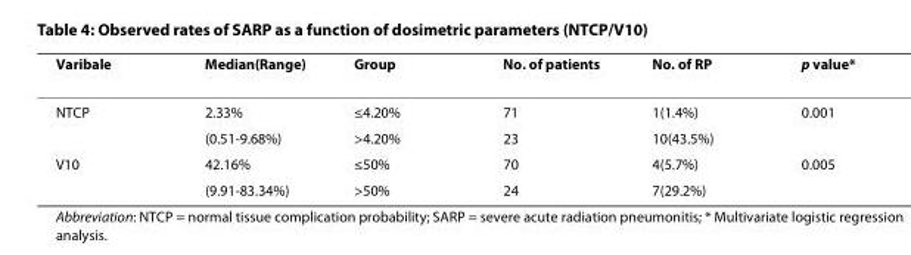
<table><thead><tr><td>Varibale</td><td>Median(Range)</td><td>Group</td><td>No. of patients</td><td>No. of RP</td><td>p value*</td></tr></thead><tbody><tr><td rowspan="2">NTCP</td><td>2.33%</td><td>≤4.20%</td><td>71</td><td>1(1.4%)</td><td>0.001</td></tr><tr><td>(0.51-9.68%)</td><td>&gt;4.20%</td><td>23</td><td>10(43.5%)</td><td></td></tr><tr><td rowspan="2">V10</td><td>42.16%</td><td>≤50%</td><td>70</td><td>4(5.7%)</td><td>0.005</td></tr><tr><td>(9.91-83.34%)</td><td>&gt;50%</td><td>24</td><td>7(29.2%)</td><td></td></tr></tbody></table>